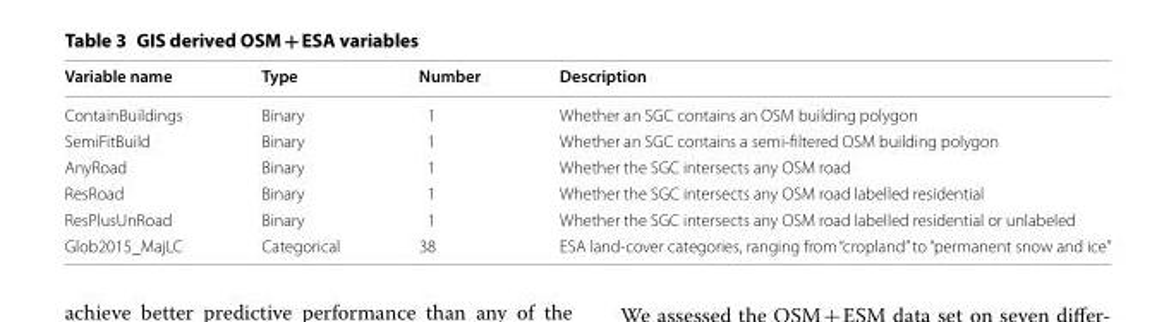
<table><thead><tr><td>Variable name</td><td>Type</td><td>Number</td><td>Description</td></tr></thead><tbody><tr><td>ContainBuildings</td><td>Binary</td><td>1</td><td>Whether an SGC contains an OSM building polygon</td></tr><tr><td>SemiFitBuild</td><td>Binary</td><td>1</td><td>Whether an SGC contains a semi-filtered OSM building polygon</td></tr><tr><td>AnyRoad</td><td>Binary</td><td>1</td><td>Whether the SGC intersects any OSM road</td></tr><tr><td>ResRoad</td><td>Binary</td><td>1</td><td>Whether the SGC intersects any OSM road labelled residential</td></tr><tr><td>ResPlusUnRoad</td><td>Binary</td><td>1</td><td>Whether the SGC intersects any OSM road labelled residential or unlabeled</td></tr><tr><td>Glob2015_MajLC</td><td>Categorical</td><td>38</td><td>ESA land-cover categories, ranging from “cropland” to “permanent snow and ice”</td></tr></tbody></table>